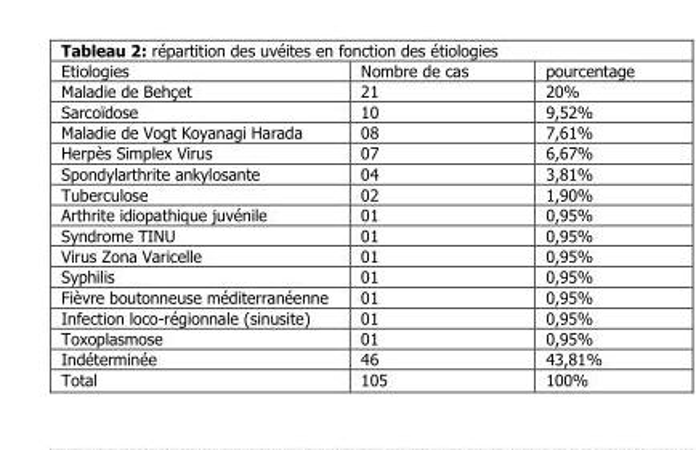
<table><thead><tr><td>Etiologies</td><td>Nombre de cas</td><td>pourcentage</td></tr></thead><tbody><tr><td>Maladie de Behçet</td><td>21</td><td>20%</td></tr><tr><td>Sarcoïdose</td><td>10</td><td>9,52%</td></tr><tr><td>Maladie de Vogt Koyanagi Harada</td><td>08</td><td>7,61%</td></tr><tr><td>Herpès Simplex Virus</td><td>07</td><td>6,67%</td></tr><tr><td>Spondylarthrite ankylosante</td><td>04</td><td>3,81%</td></tr><tr><td>Tuberculose</td><td>02</td><td>1,90%</td></tr><tr><td>Arthrite idiopathique juvénile</td><td>01</td><td>0,95%</td></tr><tr><td>Syndrome TINU</td><td>01</td><td>0,95%</td></tr><tr><td>Virus Zona Varicelle</td><td>01</td><td>0,95%</td></tr><tr><td>Syphilis</td><td>01</td><td>0,95%</td></tr><tr><td>Fièvre boutonneuse méditerranéenne</td><td>01</td><td>0,95%</td></tr><tr><td>Infection loco-régionnale (sinusite)</td><td>01</td><td>0,95%</td></tr><tr><td>Toxoplasmose</td><td>01</td><td>0,95%</td></tr><tr><td>Indéterminée</td><td>46</td><td>43,81%</td></tr><tr><td>Total</td><td>105</td><td>100%</td></tr></tbody></table>